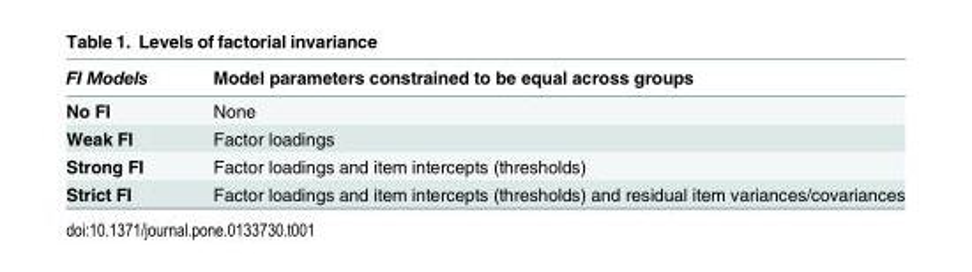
<table><thead><tr><td>FI Models</td><td>Model parameters constrained to be equal across groups</td></tr></thead><tbody><tr><td>No FI</td><td>None</td></tr><tr><td>Weak FI</td><td>Factor loadings</td></tr><tr><td>Strong FI</td><td>Factor loadings and item intercepts (thresholds)</td></tr><tr><td>Strict FI</td><td>Factor loadings and item intercepts (thresholds) and residual item variances/covariances</td></tr></tbody></table>